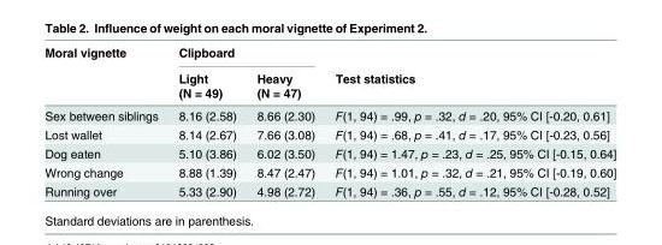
<table><thead><tr><td rowspan="2">Moral vignette</td><td colspan="2">Clipboard</td><td rowspan="2">Test statistics</td></tr><tr><td>Light (N = 49)</td><td>Heavy (N = 47)</td></tr></thead><tbody><tr><td>Sex between siblings</td><td>8.16 (2.58)</td><td>8.66 (2.30)</td><td>F(1, 94) = .99, p = .32, d = .20, 95% CI [-0.20, 0.61]</td></tr><tr><td>Lost wallet</td><td>8.14 (2.67)</td><td>7.66 (3.08)</td><td>F(1, 94) = .68, p = .41, d = .17, 95% CI [-0.23, 0.56]</td></tr><tr><td>Dog eaten</td><td>5.10 (3.86)</td><td>6.02 (3.50)</td><td>F(1, 94) = 1.47, p = .23, d = .25, 95% CI [-0.15, 0.64]</td></tr><tr><td>Wrong change</td><td>8.88 (1.39)</td><td>8.47 (2.47)</td><td>F(1, 94) = 1.01, p = .32, d = .21, 95% CI [-0.19, 0.60]</td></tr><tr><td>Running over</td><td>5.33 (2.90)</td><td>4.98 (2.72)</td><td>F(1, 94) = .36, p = .55, d = .12, 95% CI [-0.28, 0.52]</td></tr></tbody></table>